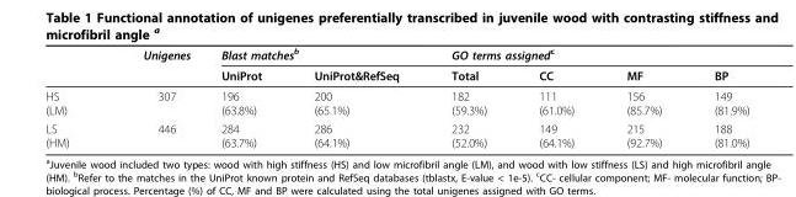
<table><thead><tr><td rowspan="2"></td><td rowspan="2">Unigenes</td><td colspan="2">Blast matches<sup>b</sup></td><td colspan="4">GO terms assigned<sup>c</sup></td></tr><tr><td>UniProt</td><td>UniProt&amp;RefSeq</td><td>Total</td><td>CC</td><td>MF</td><td>BP</td></tr></thead><tbody><tr><td>HS (LM)</td><td>307</td><td>196 (63.8%)</td><td>200 (65.1%)</td><td>182 (59.3%)</td><td>111 (61.0%)</td><td>156 (85.7%)</td><td>149 (81.9%)</td></tr><tr><td>LS (HM)</td><td>446</td><td>284 (63.7%)</td><td>286 (64.1%)</td><td>232 (52.0%)</td><td>149 (64.1%)</td><td>215 (92.7%)</td><td>188 (81.0%)</td></tr></tbody></table>